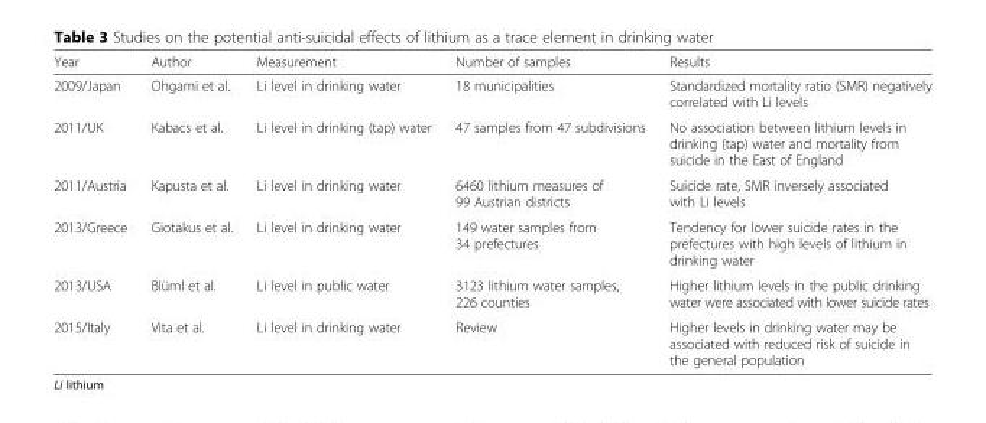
<table><thead><tr><td>Year</td><td>Author</td><td>Measurement</td><td>Number of samples</td><td>Results</td></tr></thead><tbody><tr><td>2009/Japan</td><td>Ohgami et al.</td><td>Li level in drinking water</td><td>18 municipalities</td><td>Standardized mortality ratio (SMR) negatively correlated with Li levels</td></tr><tr><td>2011/UK</td><td>Kabacs et al.</td><td>Li level in drinking (tap) water</td><td>47 samples from 47 subdivisions</td><td>No association between lithium levels in drinking (tap) water and mortality from suicide in the East of England</td></tr><tr><td>2011/Austria</td><td>Kapusta et al.</td><td>Li level in drinking water</td><td>6460 lithium measures of 99 Austrian districts</td><td>Suicide rate, SMR inversely associated with Li levels</td></tr><tr><td>2013/Greece</td><td>Giotakus et al.</td><td>Li level in drinking water</td><td>149 water samples from 34 prefectures</td><td>Tendency for lower suicide rates in the prefectures with high levels of lithium in drinking water</td></tr><tr><td>2013/USA</td><td>Blüml et al.</td><td>Li level in public water</td><td>3123 lithium water samples, 226 counties</td><td>Higher lithium levels in the public drinking water were associated with lower suicide rates</td></tr><tr><td>2015/Italy</td><td>Vita et al.</td><td>Li level in drinking water</td><td>Review</td><td>Higher levels in drinking water may be associated with reduced risk of suicide in the general population</td></tr></tbody></table>